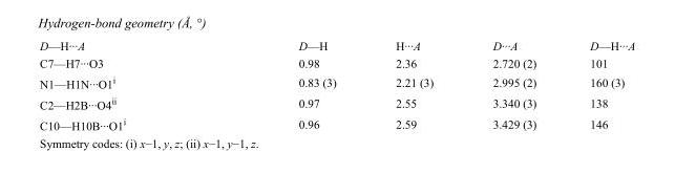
<table><tbody><tr><td>D—H···A</td><td>D—H</td><td>H···A</td><td>D···A</td><td>D—H···A</td></tr><tr><td>C7—H7···O3</td><td>0.98</td><td>2.36</td><td>2.720 (2)</td><td>101</td></tr><tr><td>N1—H1N···O1<sup>i</sup></td><td>0.83 (3)</td><td>2.21 (3)</td><td>2.995 (2)</td><td>160 (3)</td></tr><tr><td>C2—H2B···O4<sup>ii</sup></td><td>0.97</td><td>2.55</td><td>3.340 (3)</td><td>138</td></tr><tr><td>C10—H10B···O1<sup>i</sup></td><td>0.96</td><td>2.59</td><td>3.429 (3)</td><td>146</td></tr></tbody></table>